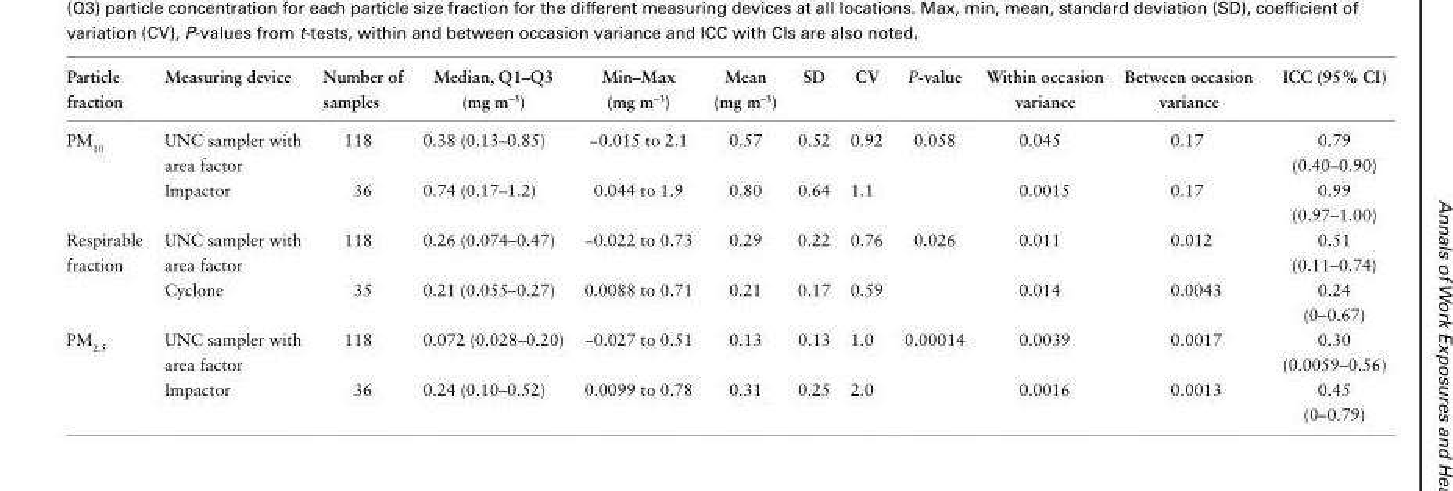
<table><thead><tr><td>Particle fraction</td><td>Measuring device</td><td>Number of samples</td><td>Median, Q1–Q3 (mg m<sup>−3</sup>)</td><td>Min–Max (mg m<sup>−3</sup>)</td><td>Mean (mg m<sup>−3</sup>)</td><td>SD</td><td>CV</td><td>P-value</td><td>Within occasion variance</td><td>Between occasion variance</td><td>ICC (95% CI)</td></tr></thead><tbody><tr><td rowspan="2">PM<sub>10</sub></td><td>UNC sampler with area factor</td><td>118</td><td>0.38 (0.13–0.85)</td><td>−0.015 to 2.1</td><td>0.57</td><td>0.52</td><td>0.92</td><td rowspan="2">0.058</td><td>0.045</td><td>0.17</td><td>0.79 (0.40–0.90)</td></tr><tr><td>Impactor</td><td>36</td><td>0.74 (0.17–1.2)</td><td>0.044 to 1.9</td><td>0.80</td><td>0.64</td><td>1.1</td><td>0.0015</td><td>0.17</td><td>0.99 (0.97–1.00)</td></tr><tr><td rowspan="2">Respirable fraction</td><td>UNC sampler with area factor</td><td>118</td><td>0.26 (0.074–0.47)</td><td>−0.022 to 0.73</td><td>0.29</td><td>0.22</td><td>0.76</td><td rowspan="2">0.026</td><td>0.011</td><td>0.012</td><td>0.51 (0.11–0.74)</td></tr><tr><td>Cyclone</td><td>35</td><td>0.21 (0.055–0.27)</td><td>0.0088 to 0.71</td><td>0.21</td><td>0.17</td><td>0.59</td><td>0.014</td><td>0.0043</td><td>0.24 (0–0.67)</td></tr><tr><td rowspan="2">PM<sub>2.5</sub></td><td>UNC sampler with area factor</td><td>118</td><td>0.072 (0.028–0.20)</td><td>−0.027 to 0.51</td><td>0.13</td><td>0.13</td><td>1.0</td><td rowspan="2">0.00014</td><td>0.0039</td><td>0.0017</td><td>0.30 (0.0059–0.56)</td></tr><tr><td>Impactor</td><td>36</td><td>0.24 (0.10–0.52)</td><td>0.0099 to 0.78</td><td>0.31</td><td>0.25</td><td>2.0</td><td>0.0016</td><td>0.0013</td><td>0.45 (0–0.79)</td></tr></tbody></table>